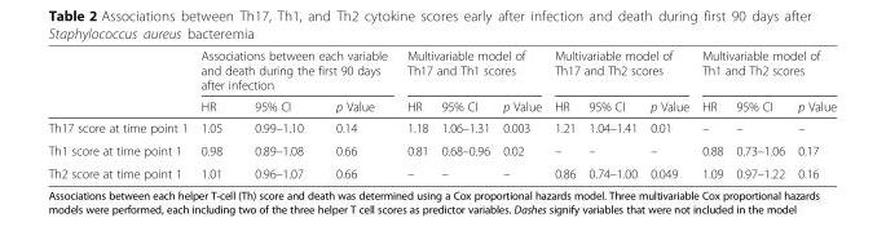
<table><thead><tr><td rowspan="2"></td><td colspan="3">Associations between each variable and death during the first 90 days after infection</td><td colspan="3">Multivariable model of Th17 and Th1 scores</td><td colspan="3">Multivariable model of Th17 and Th2 scores</td><td colspan="3">Multivariable model of Th1 and Th2 scores</td></tr><tr><td>HR</td><td>95% CI</td><td>p Value</td><td>HR</td><td>95% CI</td><td>p Value</td><td>HR</td><td>95% CI</td><td>p Value</td><td>HR</td><td>95% CI</td><td>p Value</td></tr></thead><tbody><tr><td>Th17 score at time point 1</td><td>1.05</td><td>0.99–1.10</td><td>0.14</td><td>1.18</td><td>1.06–1.31</td><td>0.003</td><td>1.21</td><td>1.04–1.41</td><td>0.01</td><td>–</td><td>–</td><td>–</td></tr><tr><td>Th1 score at time point 1</td><td>0.98</td><td>0.89–1.08</td><td>0.66</td><td>0.81</td><td>0.68–0.96</td><td>0.02</td><td>–</td><td>–</td><td>–</td><td>0.88</td><td>0.73–1.06</td><td>0.17</td></tr><tr><td>Th2 score at time point 1</td><td>1.01</td><td>0.96–1.07</td><td>0.66</td><td>–</td><td>–</td><td>–</td><td>0.86</td><td>0.74–1.00</td><td>0.049</td><td>1.09</td><td>0.97–1.22</td><td>0.16</td></tr></tbody></table>